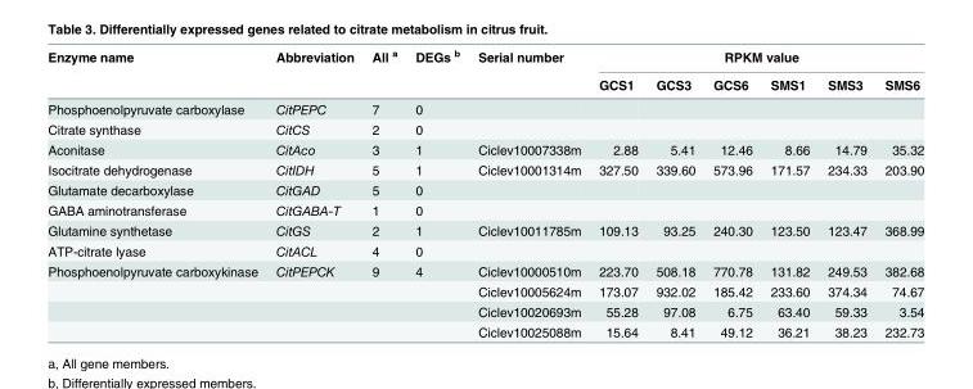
<table><thead><tr><td rowspan="2">Enzyme name</td><td rowspan="2">Abbreviation</td><td rowspan="2">All <sup>a</sup></td><td rowspan="2">DEGs <sup>b</sup></td><td rowspan="2">Serial number</td><td colspan="6">RPKM value</td></tr><tr><td>GCS1</td><td>GCS3</td><td>GCS6</td><td>SMS1</td><td>SMS3</td><td>SMS6</td></tr></thead><tbody><tr><td>Phosphoenolpyruvate carboxylase</td><td>CitPEPC</td><td>7</td><td>0</td><td></td><td></td><td></td><td></td><td></td><td></td><td></td></tr><tr><td>Citrate synthase</td><td>CitCS</td><td>2</td><td>0</td><td></td><td></td><td></td><td></td><td></td><td></td><td></td></tr><tr><td>Aconitase</td><td>CitAco</td><td>3</td><td>1</td><td>Ciclev10007338m</td><td>2.88</td><td>5.41</td><td>12.46</td><td>8.66</td><td>14.79</td><td>35.32</td></tr><tr><td>Isocitrate dehydrogenase</td><td>CitIDH</td><td>5</td><td>1</td><td>Ciclev10001314m</td><td>327.50</td><td>339.60</td><td>573.96</td><td>171.57</td><td>234.33</td><td>203.90</td></tr><tr><td>Glutamate decarboxylase</td><td>CitGAD</td><td>5</td><td>0</td><td></td><td></td><td></td><td></td><td></td><td></td><td></td></tr><tr><td>GABA aminotransferase</td><td>CitGABA-T</td><td>1</td><td>0</td><td></td><td></td><td></td><td></td><td></td><td></td><td></td></tr><tr><td>Glutamine synthetase</td><td>CitGS</td><td>2</td><td>1</td><td>Ciclev10011785m</td><td>109.13</td><td>93.25</td><td>240.30</td><td>123.50</td><td>123.47</td><td>368.99</td></tr><tr><td>ATP-citrate lyase</td><td>CitACL</td><td>4</td><td>0</td><td></td><td></td><td></td><td></td><td></td><td></td><td></td></tr><tr><td rowspan="4">Phosphoenolpyruvate carboxykinase</td><td>CitPEPCK</td><td>9</td><td>4</td><td>Ciclev10000510m</td><td>223.70</td><td>508.18</td><td>770.78</td><td>131.82</td><td>249.53</td><td>382.68</td></tr><tr><td></td><td></td><td></td><td>Ciclev10005624m</td><td>173.07</td><td>932.02</td><td>185.42</td><td>233.60</td><td>374.34</td><td>74.67</td></tr><tr><td></td><td></td><td></td><td>Ciclev10020693m</td><td>55.28</td><td>97.08</td><td>6.75</td><td>63.40</td><td>59.33</td><td>3.54</td></tr><tr><td></td><td></td><td></td><td>Ciclev10025088m</td><td>15.64</td><td>8.41</td><td>49.12</td><td>36.21</td><td>38.23</td><td>232.73</td></tr></tbody></table>